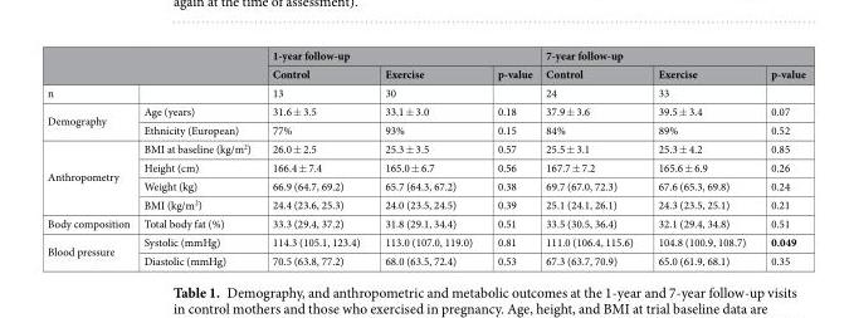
<table><thead><tr><td rowspan="2"></td><td rowspan="2"></td><td colspan="3">1-year follow-up</td><td colspan="3">7-year follow-up</td></tr><tr><td>Control</td><td>Exercise</td><td>p-value</td><td>Control</td><td>Exercise</td><td>p-value</td></tr></thead><tbody><tr><td>n</td><td></td><td>13</td><td>30</td><td></td><td>24</td><td>33</td><td></td></tr><tr><td rowspan="2">Demography</td><td>Age (years)</td><td>31.6 ± 3.5</td><td>33.1 ± 3.0</td><td>0.18</td><td>37.9 ± 3.6</td><td>39.5 ± 3.4</td><td>0.07</td></tr><tr><td>Ethnicity (European)</td><td>77%</td><td>93%</td><td>0.15</td><td>84%</td><td>89%</td><td>0.52</td></tr><tr><td rowspan="4">Anthropometry</td><td>BMI at baseline (kg/m<sup>2</sup>)</td><td>26.0 ± 2.5</td><td>25.3 ± 3.5</td><td>0.57</td><td>25.5 ± 3.1</td><td>25.3 ± 4.2</td><td>0.85</td></tr><tr><td>Height (cm)</td><td>166.4 ± 7.4</td><td>165.0 ± 6.7</td><td>0.56</td><td>167.7 ± 7.2</td><td>165.6 ± 6.9</td><td>0.26</td></tr><tr><td>Weight (kg)</td><td>66.9 (64.7, 69.2)</td><td>65.7 (64.3, 67.2)</td><td>0.38</td><td>69.7 (67.0, 72.3)</td><td>67.6 (65.3, 69.8)</td><td>0.24</td></tr><tr><td>BMI (kg/m<sup>2</sup>)</td><td>24.4 (23.6, 25.3)</td><td>24.0 (23.5, 24.5)</td><td>0.39</td><td>25.1 (24.1, 26.1)</td><td>24.3 (23.5, 25.1)</td><td>0.21</td></tr><tr><td>Body composition</td><td>Total body fat (%)</td><td>33.3 (29.4, 37.2)</td><td>31.8 (29.1, 34.4)</td><td>0.51</td><td>33.5 (30.5, 36.4)</td><td>32.1 (29.4, 34.8)</td><td>0.51</td></tr><tr><td rowspan="2">Blood pressure</td><td>Systolic (mmHg)</td><td>114.3 (105.1, 123.4)</td><td>113.0 (107.0, 119.0)</td><td>0.81</td><td>111.0 (106.4, 115.6)</td><td>104.8 (100.9, 108.7)</td><td>0.049</td></tr><tr><td>Diastolic (mmHg)</td><td>70.5 (63.8, 77.2)</td><td>68.0 (63.5, 72.4)</td><td>0.53</td><td>67.3 (63.7, 70.9)</td><td>65.0 (61.9, 68.1)</td><td>0.35</td></tr></tbody></table>